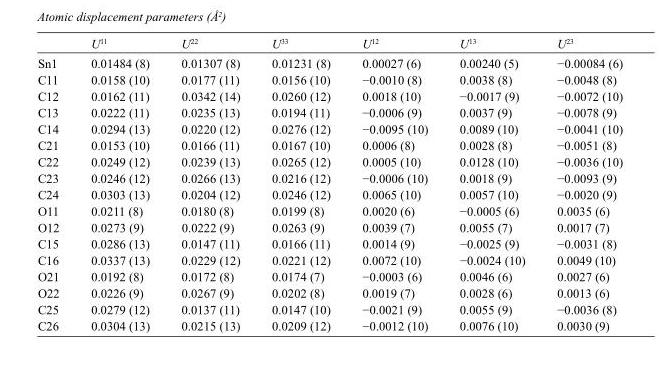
<table><thead><tr><td></td><td>U<sup>11</sup></td><td>U<sup>22</sup></td><td>U<sup>33</sup></td><td>U<sup>12</sup></td><td>U<sup>13</sup></td><td>U<sup>23</sup></td></tr></thead><tbody><tr><td>Sn1</td><td>0.01484 (8)</td><td>0.01307 (8)</td><td>0.01231 (8)</td><td>0.00027 (6)</td><td>0.00240 (5)</td><td>−0.00084 (6)</td></tr><tr><td>C11</td><td>0.0158 (10)</td><td>0.0177 (11)</td><td>0.0156 (10)</td><td>−0.0010 (8)</td><td>0.0038 (8)</td><td>−0.0048 (8)</td></tr><tr><td>C12</td><td>0.0162 (11)</td><td>0.0342 (14)</td><td>0.0260 (12)</td><td>0.0018 (10)</td><td>−0.0017 (9)</td><td>−0.0072 (10)</td></tr><tr><td>C13</td><td>0.0222 (11)</td><td>0.0235 (13)</td><td>0.0194 (11)</td><td>−0.0006 (9)</td><td>0.0037 (9)</td><td>−0.0078 (9)</td></tr><tr><td>C14</td><td>0.0294 (13)</td><td>0.0220 (12)</td><td>0.0276 (12)</td><td>−0.0095 (10)</td><td>0.0089 (10)</td><td>−0.0041 (10)</td></tr><tr><td>C21</td><td>0.0153 (10)</td><td>0.0166 (11)</td><td>0.0167 (10)</td><td>0.0006 (8)</td><td>0.0028 (8)</td><td>−0.0051 (8)</td></tr><tr><td>C22</td><td>0.0249 (12)</td><td>0.0239 (13)</td><td>0.0265 (12)</td><td>0.0005 (10)</td><td>0.0128 (10)</td><td>−0.0036 (10)</td></tr><tr><td>C23</td><td>0.0246 (12)</td><td>0.0266 (13)</td><td>0.0216 (12)</td><td>−0.0006 (10)</td><td>0.0018 (9)</td><td>−0.0093 (9)</td></tr><tr><td>C24</td><td>0.0303 (13)</td><td>0.0204 (12)</td><td>0.0246 (12)</td><td>0.0065 (10)</td><td>0.0057 (10)</td><td>−0.0020 (9)</td></tr><tr><td>O11</td><td>0.0211 (8)</td><td>0.0180 (8)</td><td>0.0199 (8)</td><td>0.0020 (6)</td><td>−0.0005 (6)</td><td>0.0035 (6)</td></tr><tr><td>O12</td><td>0.0273 (9)</td><td>0.0222 (9)</td><td>0.0263 (9)</td><td>0.0039 (7)</td><td>0.0055 (7)</td><td>0.0017 (7)</td></tr><tr><td>C15</td><td>0.0286 (13)</td><td>0.0147 (11)</td><td>0.0166 (11)</td><td>0.0014 (9)</td><td>−0.0025 (9)</td><td>−0.0031 (8)</td></tr><tr><td>C16</td><td>0.0337 (13)</td><td>0.0229 (12)</td><td>0.0221 (12)</td><td>0.0072 (10)</td><td>−0.0024 (10)</td><td>0.0049 (10)</td></tr><tr><td>O21</td><td>0.0192 (8)</td><td>0.0172 (8)</td><td>0.0174 (7)</td><td>−0.0003 (6)</td><td>0.0046 (6)</td><td>0.0027 (6)</td></tr><tr><td>O22</td><td>0.0226 (9)</td><td>0.0267 (9)</td><td>0.0202 (8)</td><td>0.0019 (7)</td><td>0.0028 (6)</td><td>0.0013 (6)</td></tr><tr><td>C25</td><td>0.0279 (12)</td><td>0.0137 (11)</td><td>0.0147 (10)</td><td>−0.0021 (9)</td><td>0.0055 (9)</td><td>−0.0036 (8)</td></tr><tr><td>C26</td><td>0.0304 (13)</td><td>0.0215 (13)</td><td>0.0209 (12)</td><td>−0.0012 (10)</td><td>0.0076 (10)</td><td>0.0030 (9)</td></tr></tbody></table>